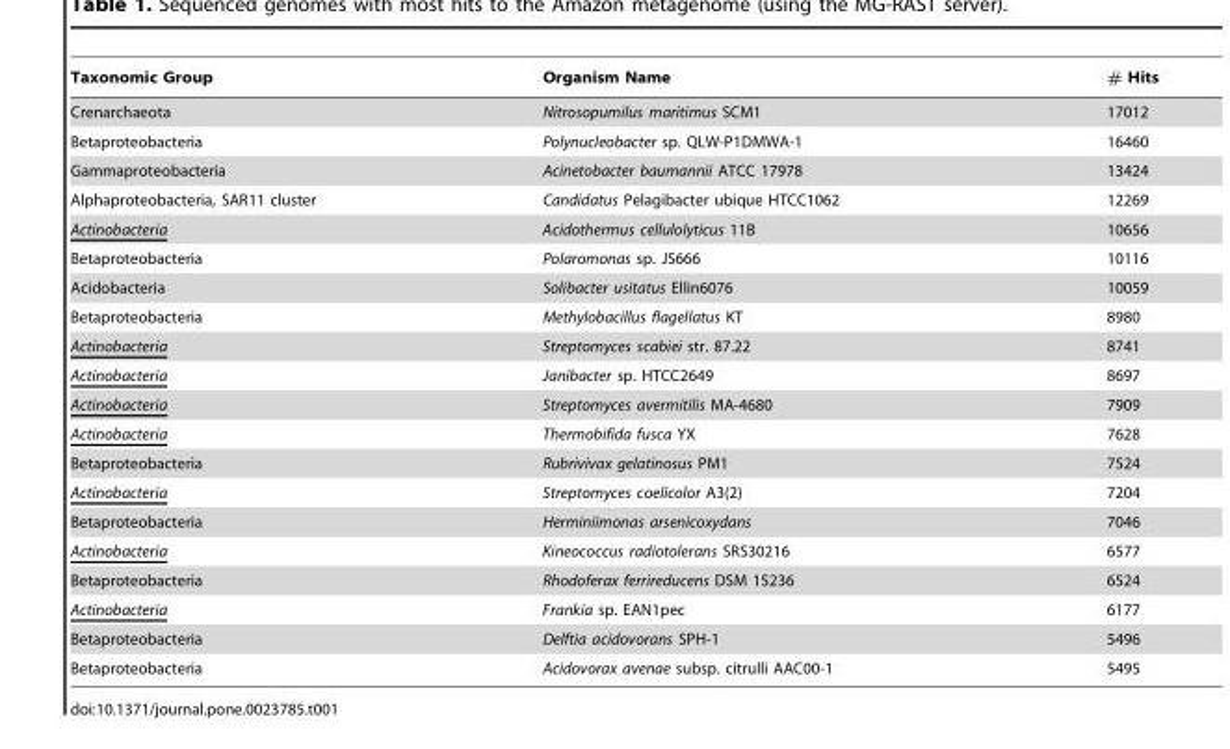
<table><thead><tr><td>Taxonomic Group</td><td>Organism Name</td><td># Hits</td></tr></thead><tbody><tr><td>Crenarchaeota</td><td>Nitrosopumilus maritimus SCM1</td><td>17012</td></tr><tr><td>Betaproteobacteria</td><td>Polynucleobacter sp. QLW-P1DMWA-1</td><td>16460</td></tr><tr><td>Gammaproteobacteria</td><td>Acinetobacter baumannii ATCC 17978</td><td>13424</td></tr><tr><td>Alphaproteobacteria, SAR11 cluster</td><td>Candidatus Pelagibacter ubique HTCC1062</td><td>12269</td></tr><tr><td>Actinobacteria</td><td>Acidothermus cellulolyticus 11B</td><td>10656</td></tr><tr><td>Betaproteobacteria</td><td>Polaromonas sp. JS666</td><td>10116</td></tr><tr><td>Acidobacteria</td><td>Solibacter usitatus Ellin6076</td><td>10059</td></tr><tr><td>Betaproteobacteria</td><td>Methylobacillus flagellatus KT</td><td>8980</td></tr><tr><td>Actinobacteria</td><td>Streptomyces scabiei str. 87.22</td><td>8741</td></tr><tr><td>Actinobacteria</td><td>Janibacter sp. HTCC2649</td><td>8697</td></tr><tr><td>Actinobacteria</td><td>Streptomyces avermitilis MA-4680</td><td>7909</td></tr><tr><td>Actinobacteria</td><td>Thermobifida fusca YX</td><td>7628</td></tr><tr><td>Betaproteobacteria</td><td>Rubrivivax gelatinosus PM1</td><td>7524</td></tr><tr><td>Actinobacteria</td><td>Streptomyces coelicolor A3(2)</td><td>7204</td></tr><tr><td>Betaproteobacteria</td><td>Herminiimonas arsenicoxydans</td><td>7046</td></tr><tr><td>Actinobacteria</td><td>Kineococcus radiotolerans SRS30216</td><td>6577</td></tr><tr><td>Betaproteobacteria</td><td>Rhodoferax ferrireducens DSM 15236</td><td>6524</td></tr><tr><td>Actinobacteria</td><td>Frankia sp. EAN1pec</td><td>6177</td></tr><tr><td>Betaproteobacteria</td><td>Delftia acidovorans SPH-1</td><td>5496</td></tr><tr><td>Betaproteobacteria</td><td>Acidovorax avenae subsp. citrulli AAC00-1</td><td>5495</td></tr></tbody></table>